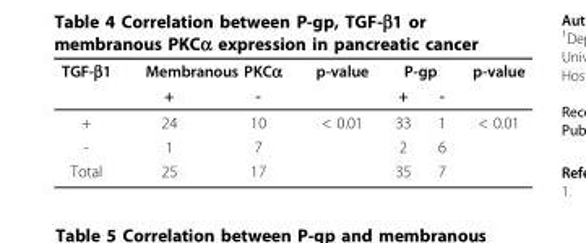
<table><thead><tr><td rowspan="2">TGF-β1</td><td colspan="2">Membranous PKCα</td><td rowspan="2">p-value</td><td colspan="2">P-gp</td><td rowspan="2">p-value</td></tr><tr><td>+</td><td>-</td><td>+</td><td>-</td></tr></thead><tbody><tr><td>+</td><td>24</td><td>10</td><td>&lt; 0.01</td><td>33</td><td>1</td><td>&lt; 0.01</td></tr><tr><td>-</td><td>1</td><td>7</td><td></td><td>2</td><td>6</td><td></td></tr><tr><td>Total</td><td>25</td><td>17</td><td></td><td>35</td><td>7</td><td></td></tr></tbody></table>